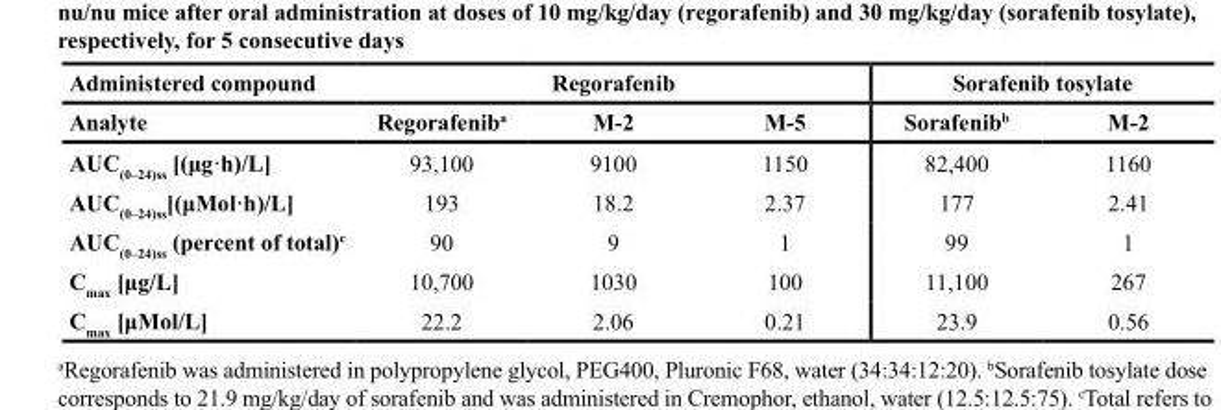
<table><thead><tr><td rowspan="2">Administered compound Analyte</td><td colspan="3">Regorafenib</td><td colspan="2">Sorafenib tosylate</td></tr><tr><td>Regorafenib<sup>a</sup></td><td>M-2</td><td>M-5</td><td>Sorafenib<sup>b</sup></td><td>M-2</td></tr></thead><tbody><tr><td>AUC<sub>(0–24)ss</sub> [(μg·h)/L]</td><td>93,100</td><td>9100</td><td>1150</td><td>82,400</td><td>1160</td></tr><tr><td>AUC<sub>(0–24)ss</sub>[(μMol·h)/L]</td><td>193</td><td>18.2</td><td>2.37</td><td>177</td><td>2.41</td></tr><tr><td>AUC<sub>(0–24)ss</sub> (percent of total)<sup>c</sup></td><td>90</td><td>9</td><td>1</td><td>99</td><td>1</td></tr><tr><td>C<sub>max</sub> [μg/L]</td><td>10,700</td><td>1030</td><td>100</td><td>11,100</td><td>267</td></tr><tr><td>C<sub>max</sub> [μMol/L]</td><td>22.2</td><td>2.06</td><td>0.21</td><td>23.9</td><td>0.56</td></tr></tbody></table>